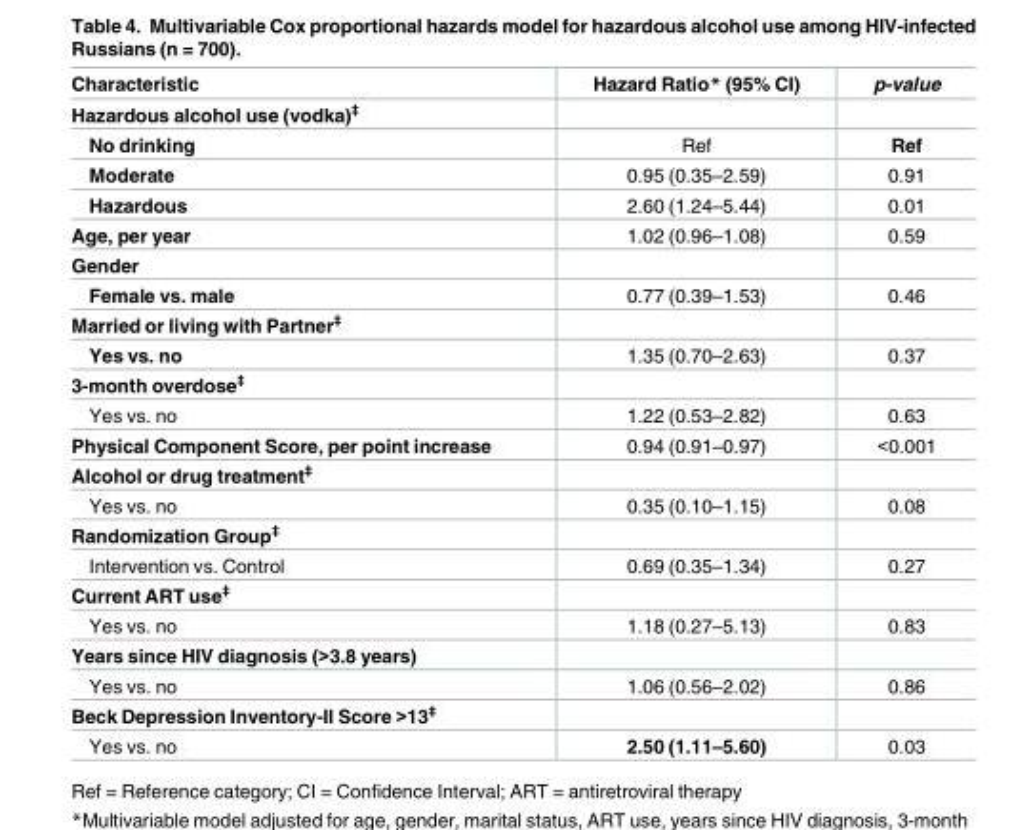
<table><thead><tr><td>Characteristic</td><td>Hazard Ratio* (95% CI)</td><td>p-value</td></tr></thead><tbody><tr><td colspan="3">Hazardous alcohol use (vodka)<sup>‡</sup></td></tr><tr><td>No drinking</td><td>Ref</td><td>Ref</td></tr><tr><td>Moderate</td><td>0.95 (0.35–2.59)</td><td>0.91</td></tr><tr><td>Hazardous</td><td>2.60 (1.24–5.44)</td><td>0.01</td></tr><tr><td>Age, per year</td><td>1.02 (0.96–1.08)</td><td>0.59</td></tr><tr><td colspan="3">Gender</td></tr><tr><td>Female vs. male</td><td>0.77 (0.39–1.53)</td><td>0.46</td></tr><tr><td colspan="3">Married or living with Partner<sup>‡</sup></td></tr><tr><td>Yes vs. no</td><td>1.35 (0.70–2.63)</td><td>0.37</td></tr><tr><td colspan="3">3-month overdose<sup>‡</sup></td></tr><tr><td>Yes vs. no</td><td>1.22 (0.53–2.82)</td><td>0.63</td></tr><tr><td>Physical Component Score, per point increase</td><td>0.94 (0.91–0.97)</td><td>&lt;0.001</td></tr><tr><td colspan="3">Alcohol or drug treatment<sup>‡</sup></td></tr><tr><td>Yes vs. no</td><td>0.35 (0.10–1.15)</td><td>0.08</td></tr><tr><td colspan="3">Randomization Group<sup>‡</sup></td></tr><tr><td>Intervention vs. Control</td><td>0.69 (0.35–1.34)</td><td>0.27</td></tr><tr><td colspan="3">Current ART use<sup>‡</sup></td></tr><tr><td>Yes vs. no</td><td>1.18 (0.27–5.13)</td><td>0.83</td></tr><tr><td colspan="3">Years since HIV diagnosis (&gt;3.8 years)</td></tr><tr><td>Yes vs. no</td><td>1.06 (0.56–2.02)</td><td>0.86</td></tr><tr><td colspan="3">Beck Depression Inventory-II Score &gt;13<sup>‡</sup></td></tr><tr><td>Yes vs. no</td><td>2.50 (1.11–5.60)</td><td>0.03</td></tr></tbody></table>